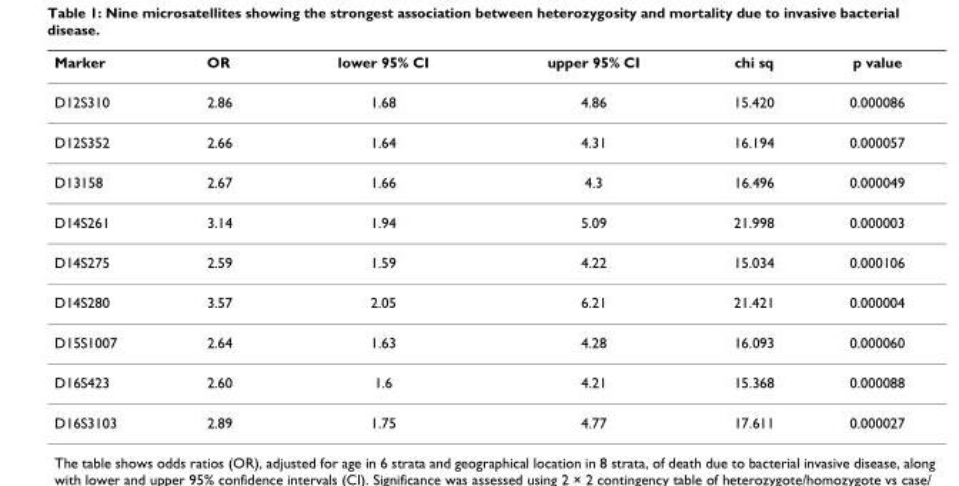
<table><thead><tr><td>Marker</td><td>OR</td><td>lower 95% CI</td><td>upper 95% CI</td><td>chi sq</td><td>p value</td></tr></thead><tbody><tr><td>D12S310</td><td>2.86</td><td>1.68</td><td>4.86</td><td>15.420</td><td>0.000086</td></tr><tr><td>D12S352</td><td>2.66</td><td>1.64</td><td>4.31</td><td>16.194</td><td>0.000057</td></tr><tr><td>D13158</td><td>2.67</td><td>1.66</td><td>4.3</td><td>16.496</td><td>0.000049</td></tr><tr><td>D14S261</td><td>3.14</td><td>1.94</td><td>5.09</td><td>21.998</td><td>0.000003</td></tr><tr><td>D14S275</td><td>2.59</td><td>1.59</td><td>4.22</td><td>15.034</td><td>0.000106</td></tr><tr><td>D14S280</td><td>3.57</td><td>2.05</td><td>6.21</td><td>21.421</td><td>0.000004</td></tr><tr><td>D15S1007</td><td>2.64</td><td>1.63</td><td>4.28</td><td>16.093</td><td>0.000060</td></tr><tr><td>D16S423</td><td>2.60</td><td>1.6</td><td>4.21</td><td>15.368</td><td>0.000088</td></tr><tr><td>D16S3103</td><td>2.89</td><td>1.75</td><td>4.77</td><td>17.611</td><td>0.000027</td></tr></tbody></table>